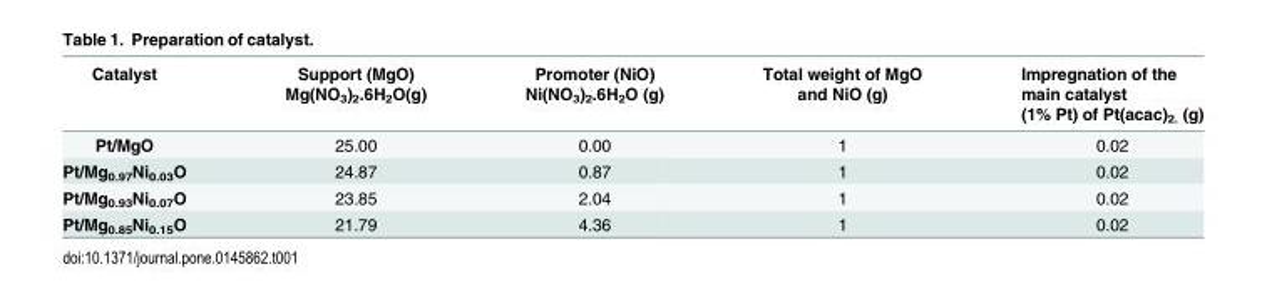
<table><thead><tr><td>Catalyst</td><td>Support (MgO) Mg(NO<sub>3</sub>)<sub>2</sub>.6H<sub>2</sub>O(g)</td><td>Promoter (NiO) Ni(NO<sub>3</sub>)<sub>2</sub>.6H<sub>2</sub>O (g)</td><td>Total weight of MgO and NiO (g)</td><td>Impregnation of the main catalyst (1% Pt) of Pt(acac)<sub>2.</sub> (g)</td></tr></thead><tbody><tr><td>Pt/MgO</td><td>25.00</td><td>0.00</td><td>1</td><td>0.02</td></tr><tr><td>Pt/Mg<sub>0.97</sub>Ni<sub>0.03</sub>O</td><td>24.87</td><td>0.87</td><td>1</td><td>0.02</td></tr><tr><td>Pt/Mg<sub>0.93</sub>Ni<sub>0.07</sub>O</td><td>23.85</td><td>2.04</td><td>1</td><td>0.02</td></tr><tr><td>Pt/Mg<sub>0.85</sub>Ni<sub>0.15</sub>O</td><td>21.79</td><td>4.36</td><td>1</td><td>0.02</td></tr></tbody></table>